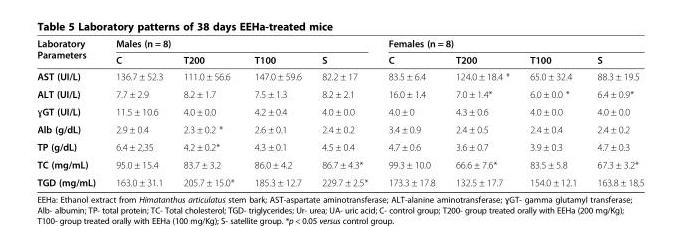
<table><thead><tr><td rowspan="2">Laboratory Parameters</td><td colspan="4">Males (n = 8)</td><td colspan="4">Females (n = 8)</td></tr><tr><td>C</td><td>T200</td><td>T100</td><td>S</td><td>C</td><td>T200</td><td>T100</td><td>S</td></tr></thead><tbody><tr><td>AST (UI/L)</td><td>136.7 ± 52.3</td><td>111.0 ± 56.6</td><td>147.0 ± 59.6</td><td>82.2 ± 17</td><td>83.5 ± 6.4</td><td>124.0 ± 18.4 *</td><td>65.0 ± 32.4</td><td>88.3 ± 19.5</td></tr><tr><td>ALT (UI/L)</td><td>7.7 ± 2.9</td><td>8.2 ± 1.7</td><td>7.5 ± 1.3</td><td>8.2 ± 2.1</td><td>16.0 ± 1.4</td><td>7.0 ± 1.4*</td><td>6.0 ± 0.0 *</td><td>6.4 ± 0.9*</td></tr><tr><td>ɣGT (UI/L)</td><td>11.5 ± 10.6</td><td>4.0 ± 0.0</td><td>4.2 ± 0.4</td><td>4.0 ± 0.0</td><td>4.0 ± 0</td><td>4.3 ± 0.6</td><td>4.0 ± 0.0</td><td>4.0 ± 0.0</td></tr><tr><td>Alb (g/dL)</td><td>2.9 ± 0.4</td><td>2.3 ± 0.2 *</td><td>2.6 ± 0.1</td><td>2.4 ± 0.2</td><td>3.4 ± 0.9</td><td>2.4 ± 0.5</td><td>2.4 ± 0.4</td><td>2.4 ± 0.2</td></tr><tr><td>TP (g/dL)</td><td>6.4 ± 2,35</td><td>4.2 ± 0.2*</td><td>4.3 ± 0.1</td><td>4.5 ± 0.4</td><td>4.7 ± 0.6</td><td>3.6 ± 0.7</td><td>3.9 ± 0.3</td><td>4.7 ± 0.3</td></tr><tr><td>TC (mg/mL)</td><td>95.0 ± 15.4</td><td>83.7 ± 3.2</td><td>86.0 ± 4.2</td><td>86.7 ± 4.3*</td><td>99.3 ± 10.0</td><td>66.6 ± 7.6*</td><td>83.5 ± 5.8</td><td>67.3 ± 3.2*</td></tr><tr><td>TGD (mg/mL)</td><td>163.0 ± 31.1</td><td>205.7 ± 15.0*</td><td>185.3 ± 12.7</td><td>229.7 ± 2.5*</td><td>173.3 ± 17.8</td><td>132.5 ± 17.7</td><td>154.0 ± 12.1</td><td>163.8 ± 18,5</td></tr></tbody></table>